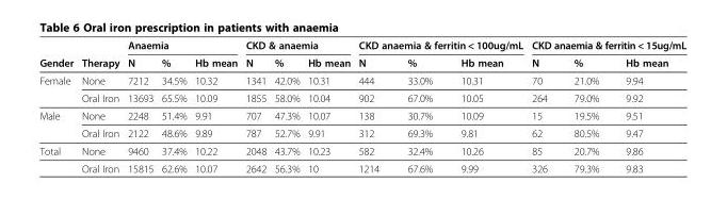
<table><thead><tr><td rowspan="2">Gender</td><td rowspan="2">Therapy</td><td colspan="3">Anaemia</td><td colspan="3">CKD &amp; anaemia</td><td colspan="3">CKD anaemia &amp; ferritin &lt; 100ug/mL</td><td colspan="3">CKD anaemia &amp; ferritin &lt; 15ug/mL</td></tr><tr><td>N</td><td>%</td><td>Hb mean</td><td>N</td><td>%</td><td>Hb mean</td><td>N</td><td>%</td><td>Hb mean</td><td>N</td><td>%</td><td>Hb mean</td></tr></thead><tbody><tr><td rowspan="2">Female</td><td>None</td><td>7212</td><td>34.5%</td><td>10.32</td><td>1341</td><td>42.0%</td><td>10.31</td><td>444</td><td>33.0%</td><td>10.31</td><td>70</td><td>21.0%</td><td>9.94</td></tr><tr><td>Oral Iron</td><td>13693</td><td>65.5%</td><td>10.09</td><td>1855</td><td>58.0%</td><td>10.04</td><td>902</td><td>67.0%</td><td>10.05</td><td>264</td><td>79.0%</td><td>9.92</td></tr><tr><td rowspan="2">Male</td><td>None</td><td>2248</td><td>51.4%</td><td>9.91</td><td>707</td><td>47.3%</td><td>10.07</td><td>138</td><td>30.7%</td><td>10.09</td><td>15</td><td>19.5%</td><td>9.51</td></tr><tr><td>Oral Iron</td><td>2122</td><td>48.6%</td><td>9.89</td><td>787</td><td>52.7%</td><td>9.91</td><td>312</td><td>69.3%</td><td>9.81</td><td>62</td><td>80.5%</td><td>9.47</td></tr><tr><td rowspan="2">Total</td><td>None</td><td>9460</td><td>37.4%</td><td>10.22</td><td>2048</td><td>43.7%</td><td>10.23</td><td>582</td><td>32.4%</td><td>10.26</td><td>85</td><td>20.7%</td><td>9.86</td></tr><tr><td>Oral Iron</td><td>15815</td><td>62.6%</td><td>10.07</td><td>2642</td><td>56.3%</td><td>10</td><td>1214</td><td>67.6%</td><td>9.99</td><td>326</td><td>79.3%</td><td>9.83</td></tr></tbody></table>